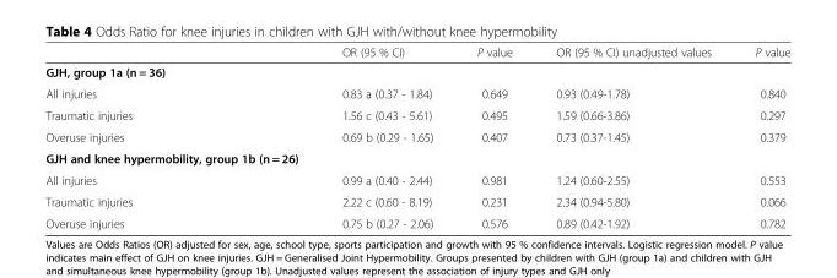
<table><thead><tr><td></td><td>OR (95 % CI)</td><td>P value</td><td>OR (95 % CI) unadjusted values</td><td>P value</td></tr></thead><tbody><tr><td colspan="5">GJH, group 1a (n = 36)</td></tr><tr><td>All injuries</td><td>0.83 a (0.37 - 1.84)</td><td>0.649</td><td>0.93 (0.49-1.78)</td><td>0.840</td></tr><tr><td>Traumatic injuries</td><td>1.56 c (0.43 - 5.61)</td><td>0.495</td><td>1.59 (0.66-3.86)</td><td>0.297</td></tr><tr><td>Overuse injuries</td><td>0.69 b (0.29 - 1.65)</td><td>0.407</td><td>0.73 (0.37-1.45)</td><td>0.379</td></tr><tr><td colspan="5">GJH and knee hypermobility, group 1b (n = 26)</td></tr><tr><td>All injuries</td><td>0.99 a (0.40 - 2.44)</td><td>0.981</td><td>1.24 (0.60-2.55)</td><td>0.553</td></tr><tr><td>Traumatic injuries</td><td>2.22 c (0.60 - 8.19)</td><td>0.231</td><td>2.34 (0.94-5.80)</td><td>0.066</td></tr><tr><td>Overuse injuries</td><td>0.75 b (0.27 - 2.06)</td><td>0.576</td><td>0.89 (0.42-1.92)</td><td>0.782</td></tr></tbody></table>